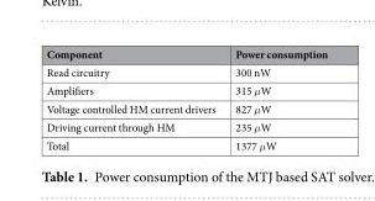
<table><thead><tr><td>Component</td><td>Power consumption</td></tr></thead><tbody><tr><td>Read circuitry</td><td>300 nW</td></tr><tr><td>Amplifiers</td><td>315 μW</td></tr><tr><td>Voltage controlled HM current drivers</td><td>827 μW</td></tr><tr><td>Driving current through HM</td><td>235 μW</td></tr><tr><td>Total</td><td>1377 μW</td></tr></tbody></table>